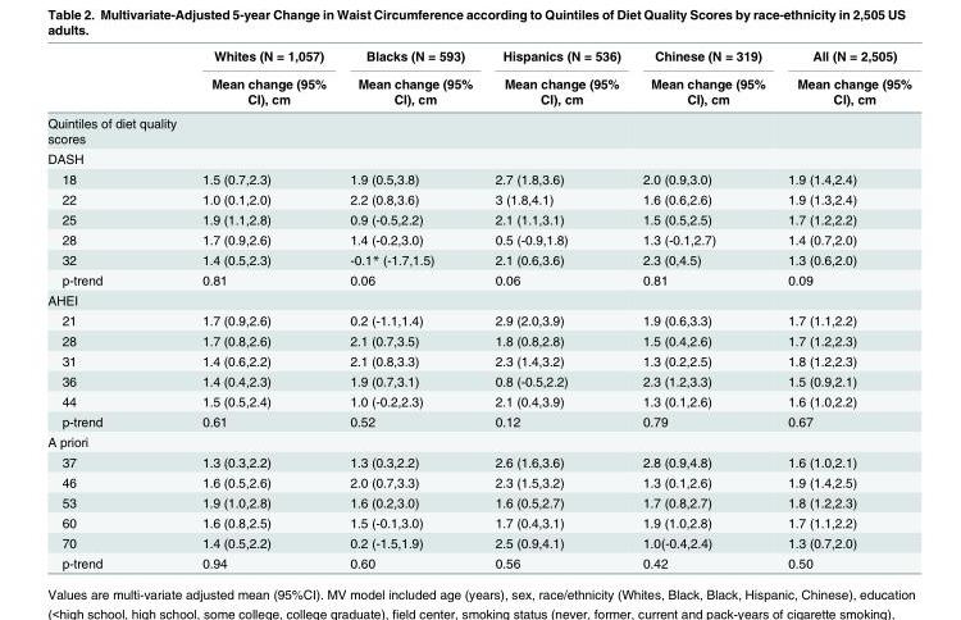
<table><thead><tr><td rowspan="2"></td><td rowspan="2">Whites (N = 1,057) Mean change (95% CI), cm</td><td rowspan="2">Blacks (N = 593) Mean change (95% CI), cm</td><td rowspan="2">Hispanics (N = 536) Mean change (95% CI), cm</td><td rowspan="2">Chinese (N = 319) Mean change (95% CI), cm</td><td rowspan="2">All (N = 2,505) Mean change (95% CI), cm</td></tr><tr></tr></thead><tbody><tr><td colspan="6">Quintiles of diet quality scores</td></tr><tr><td colspan="6">DASH</td></tr><tr><td>18</td><td>1.5 (0.7,2.3)</td><td>1.9 (0.5,3.8)</td><td>2.7 (1.8,3.6)</td><td>2.0 (0.9,3.0)</td><td>1.9 (1.4,2.4)</td></tr><tr><td>22</td><td>1.0 (0.1,2.0)</td><td>2.2 (0.8,3.6)</td><td>3 (1.8,4.1)</td><td>1.6 (0.6,2.6)</td><td>1.9 (1.3,2.4)</td></tr><tr><td>25</td><td>1.9 (1.1,2.8)</td><td>0.9 (-0.5,2.2)</td><td>2.1 (1.1,3.1)</td><td>1.5 (0.5,2.5)</td><td>1.7 (1.2,2.2)</td></tr><tr><td>28</td><td>1.7 (0.9,2.6)</td><td>1.4 (-0.2,3.0)</td><td>0.5 (-0.9,1.8)</td><td>1.3 (-0.1,2.7)</td><td>1.4 (0.7,2.0)</td></tr><tr><td>32</td><td>1.4 (0.5,2.3)</td><td>-0.1* (-1.7,1.5)</td><td>2.1 (0.6,3.6)</td><td>2.3 (0,4.5)</td><td>1.3 (0.6,2.0)</td></tr><tr><td>p-trend</td><td>0.81</td><td>0.06</td><td>0.06</td><td>0.81</td><td>0.09</td></tr><tr><td colspan="6">AHEI</td></tr><tr><td>21</td><td>1.7 (0.9,2.6)</td><td>0.2 (-1.1,1.4)</td><td>2.9 (2.0,3.9)</td><td>1.9 (0.6,3.3)</td><td>1.7 (1.1,2.2)</td></tr><tr><td>28</td><td>1.7 (0.8,2.6)</td><td>2.1 (0.7,3.5)</td><td>1.8 (0.8,2.8)</td><td>1.5 (0.4,2.6)</td><td>1.7 (1.2,2.3)</td></tr><tr><td>31</td><td>1.4 (0.6,2.2)</td><td>2.1 (0.8,3.3)</td><td>2.3 (1.4,3.2)</td><td>1.3 (0.2,2.5)</td><td>1.8 (1.2,2.3)</td></tr><tr><td>36</td><td>1.4 (0.4,2.3)</td><td>1.9 (0.7,3.1)</td><td>0.8 (-0.5,2.2)</td><td>2.3 (1.2,3.3)</td><td>1.5 (0.9,2.1)</td></tr><tr><td>44</td><td>1.5 (0.5,2.4)</td><td>1.0 (-0.2,2.3)</td><td>2.1 (0.4,3.9)</td><td>1.3 (0.1,2.6)</td><td>1.6 (1.0,2.2)</td></tr><tr><td>p-trend</td><td>0.61</td><td>0.52</td><td>0.12</td><td>0.79</td><td>0.67</td></tr><tr><td colspan="6">A priori</td></tr><tr><td>37</td><td>1.3 (0.3,2.2)</td><td>1.3 (0.3,2.2)</td><td>2.6 (1.6,3.6)</td><td>2.8 (0.9,4.8)</td><td>1.6 (1.0,2.1)</td></tr><tr><td>46</td><td>1.6 (0.5,2.6)</td><td>2.0 (0.7,3.3)</td><td>2.3 (1.5,3.2)</td><td>1.3 (0.1,2.6)</td><td>1.9 (1.4,2.5)</td></tr><tr><td>53</td><td>1.9 (1.0,2.8)</td><td>1.6 (0.2,3.0)</td><td>1.6 (0.5,2.7)</td><td>1.7 (0.8,2.7)</td><td>1.8 (1.2,2.3)</td></tr><tr><td>60</td><td>1.6 (0.8,2.5)</td><td>1.5 (-0.1,3.0)</td><td>1.7 (0.4,3.1)</td><td>1.9 (1.0,2.8)</td><td>1.7 (1.1,2.2)</td></tr><tr><td>70</td><td>1.4 (0.5,2.2)</td><td>0.2 (-1.5,1.9)</td><td>2.5 (0.9,4.1)</td><td>1.0(-0.4,2.4)</td><td>1.3 (0.7,2.0)</td></tr><tr><td>p-trend</td><td>0.94</td><td>0.60</td><td>0.56</td><td>0.42</td><td>0.50</td></tr></tbody></table>